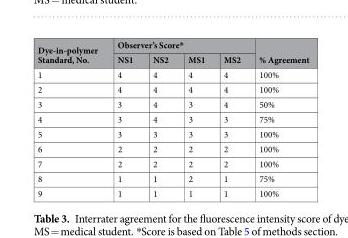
<table><thead><tr><td rowspan="2">Dye-in-polymer Standard, No.</td><td colspan="4">Observer’s Score*</td><td rowspan="2">% Agreement</td></tr><tr><td>NS1</td><td>NS2</td><td>MS1</td><td>MS2</td></tr></thead><tbody><tr><td>1</td><td>4</td><td>4</td><td>4</td><td>4</td><td>100%</td></tr><tr><td>2</td><td>4</td><td>4</td><td>4</td><td>4</td><td>100%</td></tr><tr><td>3</td><td>3</td><td>4</td><td>3</td><td>4</td><td>50%</td></tr><tr><td>4</td><td>3</td><td>4</td><td>3</td><td>3</td><td>75%</td></tr><tr><td>5</td><td>3</td><td>3</td><td>3</td><td>3</td><td>100%</td></tr><tr><td>6</td><td>2</td><td>2</td><td>2</td><td>2</td><td>100%</td></tr><tr><td>7</td><td>2</td><td>2</td><td>2</td><td>2</td><td>100%</td></tr><tr><td>8</td><td>1</td><td>1</td><td>2</td><td>1</td><td>75%</td></tr><tr><td>9</td><td>1</td><td>1</td><td>1</td><td>1</td><td>100%</td></tr></tbody></table>